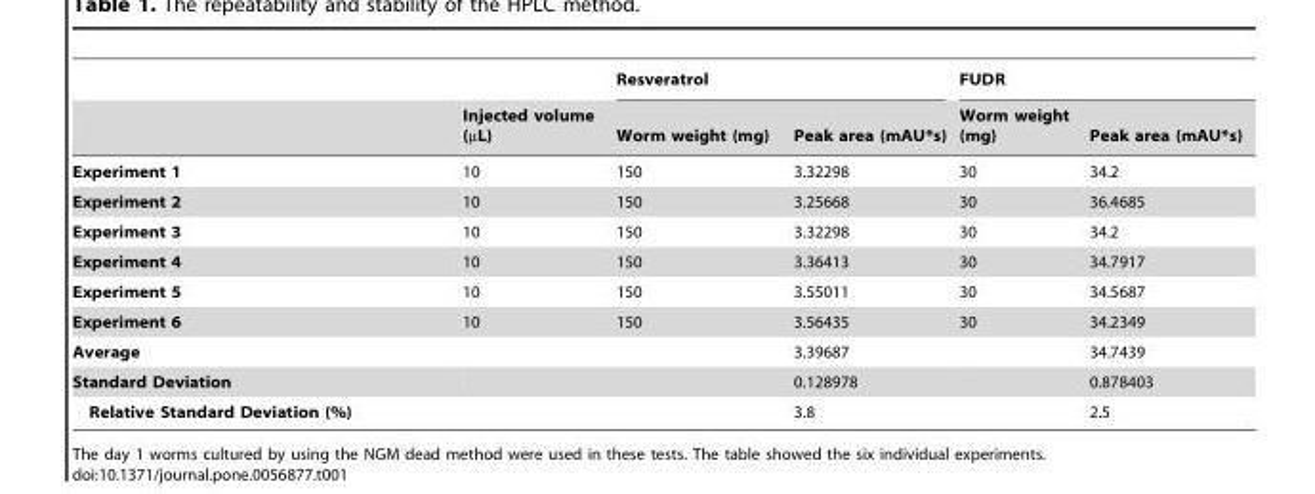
<table><thead><tr><td rowspan="2"></td><td rowspan="2">Injected volume (µL)</td><td colspan="2">Resveratrol</td><td colspan="2">FUDR</td></tr><tr><td>Worm weight (mg)</td><td>Peak area (mAU*s)</td><td>Worm weight (mg)</td><td>Peak area (mAU*s)</td></tr></thead><tbody><tr><td>Experiment 1</td><td>10</td><td>150</td><td>3.32298</td><td>30</td><td>34.2</td></tr><tr><td>Experiment 2</td><td>10</td><td>150</td><td>3.25668</td><td>30</td><td>36.4685</td></tr><tr><td>Experiment 3</td><td>10</td><td>150</td><td>3.32298</td><td>30</td><td>34.2</td></tr><tr><td>Experiment 4</td><td>10</td><td>150</td><td>3.36413</td><td>30</td><td>34.7917</td></tr><tr><td>Experiment 5</td><td>10</td><td>150</td><td>3.55011</td><td>30</td><td>34.5687</td></tr><tr><td>Experiment 6</td><td>10</td><td>150</td><td>3.56435</td><td>30</td><td>34.2349</td></tr><tr><td>Average</td><td></td><td></td><td>3.39687</td><td></td><td>34.7439</td></tr><tr><td>Standard Deviation</td><td></td><td></td><td>0.128978</td><td></td><td>0.878403</td></tr><tr><td>Relative Standard Deviation (%)</td><td></td><td></td><td>3.8</td><td></td><td>2.5</td></tr></tbody></table>